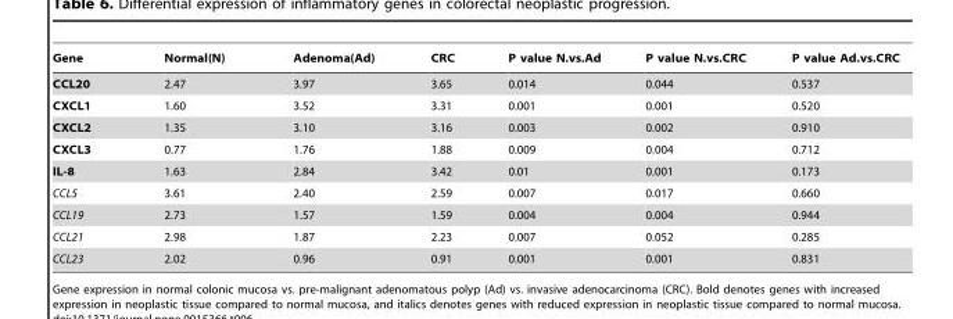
<table><thead><tr><td>Gene</td><td>Normal(N)</td><td>Adenoma(Ad)</td><td>CRC</td><td>P value N.vs.Ad</td><td>P value N.vs.CRC</td><td>P value Ad.vs.CRC</td></tr></thead><tbody><tr><td>CCL20</td><td>2.47</td><td>3.97</td><td>3.65</td><td>0.014</td><td>0.044</td><td>0.537</td></tr><tr><td>CXCL1</td><td>1.60</td><td>3.52</td><td>3.31</td><td>0.001</td><td>0.001</td><td>0.520</td></tr><tr><td>CXCL2</td><td>1.35</td><td>3.10</td><td>3.16</td><td>0.003</td><td>0.002</td><td>0.910</td></tr><tr><td>CXCL3</td><td>0.77</td><td>1.76</td><td>1.88</td><td>0.009</td><td>0.004</td><td>0.712</td></tr><tr><td>IL-8</td><td>1.63</td><td>2.84</td><td>3.42</td><td>0.01</td><td>0.001</td><td>0.173</td></tr><tr><td>CCL5</td><td>3.61</td><td>2.40</td><td>2.59</td><td>0.007</td><td>0.017</td><td>0.660</td></tr><tr><td>CCL19</td><td>2.73</td><td>1.57</td><td>1.59</td><td>0.004</td><td>0.004</td><td>0.944</td></tr><tr><td>CCL21</td><td>2.98</td><td>1.87</td><td>2.23</td><td>0.007</td><td>0.052</td><td>0.285</td></tr><tr><td>CCL23</td><td>2.02</td><td>0.96</td><td>0.91</td><td>0.001</td><td>0.001</td><td>0.831</td></tr></tbody></table>